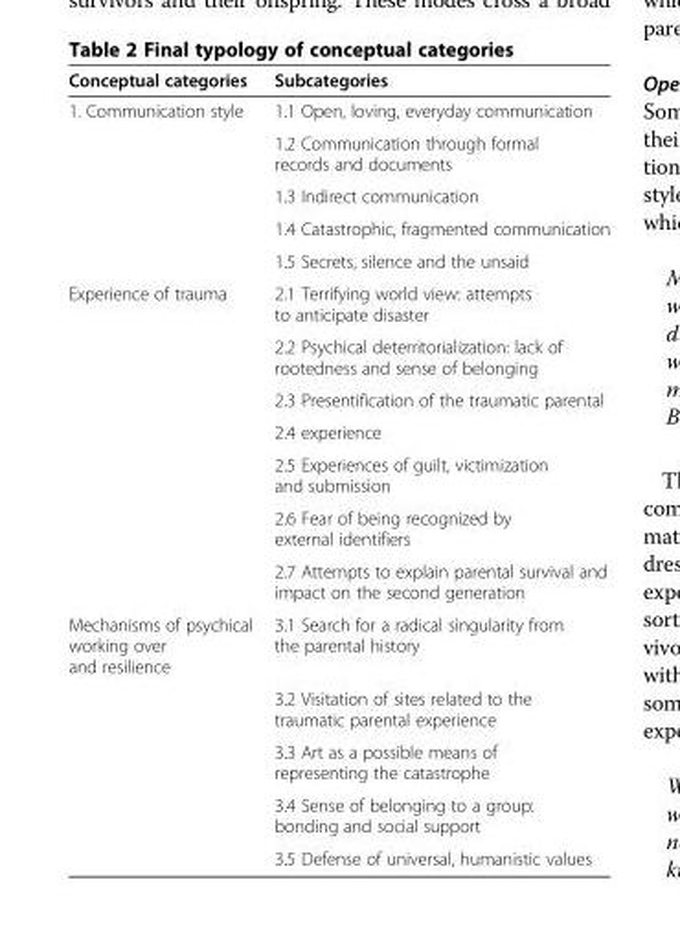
<table><thead><tr><td>Conceptual categories</td><td>Subcategories</td></tr></thead><tbody><tr><td rowspan="5">1. Communication style</td><td>1.1 Open, loving, everyday communication</td></tr><tr><td>1.2 Communication through formal records and documents</td></tr><tr><td>1.3 Indirect communication</td></tr><tr><td>1.4 Catastrophic, fragmented communication</td></tr><tr><td>1.5 Secrets, silence and the unsaid</td></tr><tr><td rowspan="7">Experience of trauma</td><td>2.1 Terrifying world view: attempts to anticipate disaster</td></tr><tr><td>2.2 Psychical deterritorialization: lack of rootedness and sense of belonging</td></tr><tr><td>2.3 Presentification of the traumatic parental</td></tr><tr><td>2.4 experience</td></tr><tr><td>2.5 Experiences of guilt, victimization and submission</td></tr><tr><td>2.6 Fear of being recognized by external identifiers</td></tr><tr><td>2.7 Attempts to explain parental survival and impact on the second generation</td></tr><tr><td rowspan="5">Mechanisms of psychical working over and resilience</td><td>3.1 Search for a radical singularity from the parental history</td></tr><tr><td>3.2 Visitation of sites related to the traumatic parental experience</td></tr><tr><td>3.3 Art as a possible means of representing the catastrophe</td></tr><tr><td>3.4 Sense of belonging to a group: bonding and social support</td></tr><tr><td>3.5 Defense of universal, humanistic values</td></tr></tbody></table>